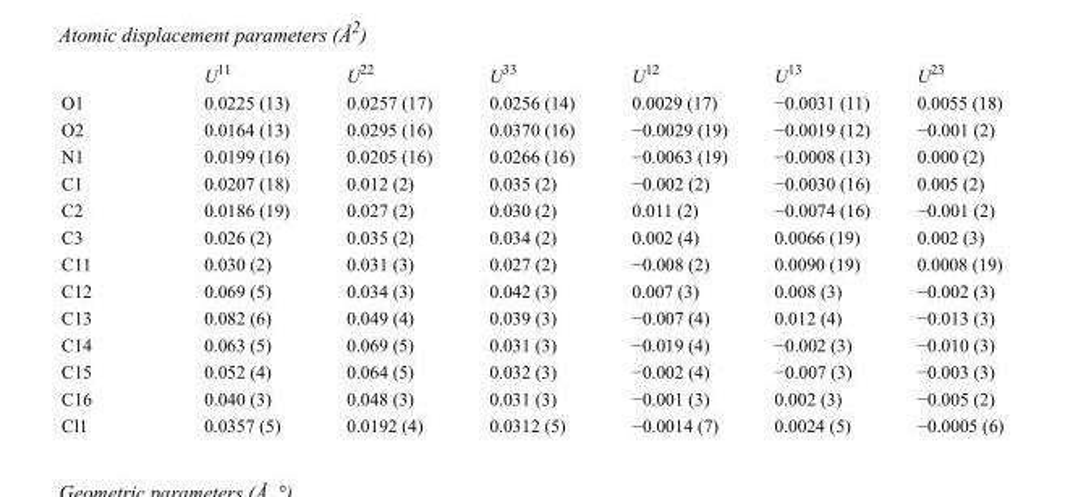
<table><thead><tr><td></td><td>U<sup>11</sup></td><td>U<sup>22</sup></td><td>U<sup>33</sup></td><td>U<sup>12</sup></td><td>U<sup>13</sup></td><td>U<sup>23</sup></td></tr></thead><tbody><tr><td>O1</td><td>0.0225 (13)</td><td>0.0257 (17)</td><td>0.0256 (14)</td><td>0.0029 (17)</td><td>−0.0031 (11)</td><td>0.0055 (18)</td></tr><tr><td>O2</td><td>0.0164 (13)</td><td>0.0295 (16)</td><td>0.0370 (16)</td><td>−0.0029 (19)</td><td>−0.0019 (12)</td><td>−0.001 (2)</td></tr><tr><td>N1</td><td>0.0199 (16)</td><td>0.0205 (16)</td><td>0.0266 (16)</td><td>−0.0063 (19)</td><td>−0.0008 (13)</td><td>0.000 (2)</td></tr><tr><td>C1</td><td>0.0207 (18)</td><td>0.012 (2)</td><td>0.035 (2)</td><td>−0.002 (2)</td><td>−0.0030 (16)</td><td>0.005 (2)</td></tr><tr><td>C2</td><td>0.0186 (19)</td><td>0.027 (2)</td><td>0.030 (2)</td><td>0.011 (2)</td><td>−0.0074 (16)</td><td>−0.001 (2)</td></tr><tr><td>C3</td><td>0.026 (2)</td><td>0.035 (2)</td><td>0.034 (2)</td><td>0.002 (4)</td><td>0.0066 (19)</td><td>0.002 (3)</td></tr><tr><td>C11</td><td>0.030 (2)</td><td>0.031 (3)</td><td>0.027 (2)</td><td>−0.008 (2)</td><td>0.0090 (19)</td><td>0.0008 (19)</td></tr><tr><td>C12</td><td>0.069 (5)</td><td>0.034 (3)</td><td>0.042 (3)</td><td>0.007 (3)</td><td>0.008 (3)</td><td>−0.002 (3)</td></tr><tr><td>C13</td><td>0.082 (6)</td><td>0.049 (4)</td><td>0.039 (3)</td><td>−0.007 (4)</td><td>0.012 (4)</td><td>−0.013 (3)</td></tr><tr><td>C14</td><td>0.063 (5)</td><td>0.069 (5)</td><td>0.031 (3)</td><td>−0.019 (4)</td><td>−0.002 (3)</td><td>−0.010 (3)</td></tr><tr><td>C15</td><td>0.052 (4)</td><td>0.064 (5)</td><td>0.032 (3)</td><td>−0.002 (4)</td><td>−0.007 (3)</td><td>−0.003 (3)</td></tr><tr><td>C16</td><td>0.040 (3)</td><td>0.048 (3)</td><td>0.031 (3)</td><td>−0.001 (3)</td><td>0.002 (3)</td><td>−0.005 (2)</td></tr><tr><td>Cl1</td><td>0.0357 (5)</td><td>0.0192 (4)</td><td>0.0312 (5)</td><td>−0.0014 (7)</td><td>0.0024 (5)</td><td>−0.0005 (6)</td></tr></tbody></table>